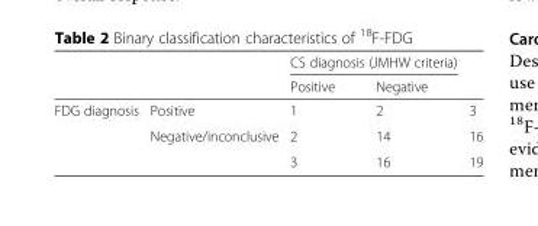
<table><thead><tr><td rowspan="2"></td><td rowspan="2"></td><td colspan="2">CS diagnosis (JMHW criteria)</td><td rowspan="2"></td></tr><tr><td>Positive</td><td>Negative</td></tr></thead><tbody><tr><td rowspan="3">FDG diagnosis</td><td>Positive</td><td>1</td><td>2</td><td>3</td></tr><tr><td>Negative/inconclusive</td><td>2</td><td>14</td><td>16</td></tr><tr><td></td><td>3</td><td>16</td><td>19</td></tr></tbody></table>